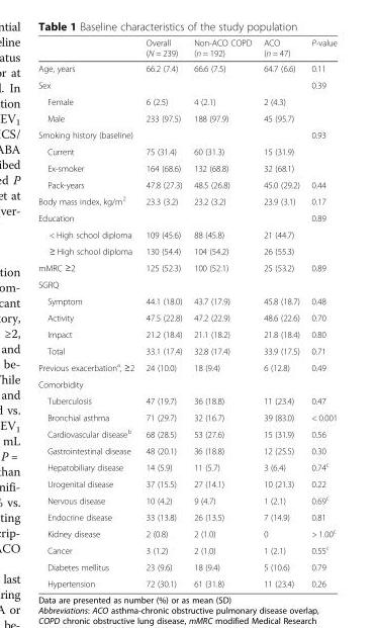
<table><thead><tr><td></td><td>Overall (N = 239)</td><td>Non-ACO COPD (n = 192)</td><td>ACO (n = 47)</td><td>P-value</td></tr></thead><tbody><tr><td>Age, years</td><td>66.2 (7.4)</td><td>66.6 (7.5)</td><td>64.7 (6.6)</td><td>0.11</td></tr><tr><td>Sex</td><td></td><td></td><td></td><td>0.39</td></tr><tr><td>Female</td><td>6 (2.5)</td><td>4 (2.1)</td><td>2 (4.3)</td><td></td></tr><tr><td>Male</td><td>233 (97.5)</td><td>188 (97.9)</td><td>45 (95.7)</td><td></td></tr><tr><td>Smoking history (baseline)</td><td></td><td></td><td></td><td>0.93</td></tr><tr><td>Current</td><td>75 (31.4)</td><td>60 (31.3)</td><td>15 (31.9)</td><td></td></tr><tr><td>Ex-smoker</td><td>164 (68.6)</td><td>132 (68.8)</td><td>32 (68.1)</td><td></td></tr><tr><td>Pack-years</td><td>47.8 (27.3)</td><td>48.5 (26.8)</td><td>45.0 (29.2)</td><td>0.44</td></tr><tr><td>Body mass index, kg/m<sup>2</sup></td><td>23.3 (3.2)</td><td>23.2 (3.2)</td><td>23.9 (3.1)</td><td>0.17</td></tr><tr><td>Education</td><td></td><td></td><td></td><td>0.89</td></tr><tr><td>&lt; High school diploma</td><td>109 (45.6)</td><td>88 (45.8)</td><td>21 (44.7)</td><td></td></tr><tr><td>≥ High school diploma</td><td>130 (54.4)</td><td>104 (54.2)</td><td>26 (55.3)</td><td></td></tr><tr><td>mMRC ≥2</td><td>125 (52.3)</td><td>100 (52.1)</td><td>25 (53.2)</td><td>0.89</td></tr><tr><td colspan="5">SGRQ</td></tr><tr><td>Symptom</td><td>44.1 (18.0)</td><td>43.7 (17.9)</td><td>45.8 (18.7)</td><td>0.48</td></tr><tr><td>Activity</td><td>47.5 (22.8)</td><td>47.2 (22.9)</td><td>48.6 (22.6)</td><td>0.70</td></tr><tr><td>Impact</td><td>21.2 (18.4)</td><td>21.1 (18.2)</td><td>21.8 (18.4)</td><td>0.80</td></tr><tr><td>Total</td><td>33.1 (17.4)</td><td>32.8 (17.4)</td><td>33.9 (17.5)</td><td>0.71</td></tr><tr><td>Previous exacerbation<sup>a</sup>, ≥2</td><td>24 (10.0)</td><td>18 (9.4)</td><td>6 (12.8)</td><td>0.49</td></tr><tr><td colspan="5">Comorbidity</td></tr><tr><td>Tuberculosis</td><td>47 (19.7)</td><td>36 (18.8)</td><td>11 (23.4)</td><td>0.47</td></tr><tr><td>Bronchial asthma</td><td>71 (29.7)</td><td>32 (16.7)</td><td>39 (83.0)</td><td>&lt; 0.001</td></tr><tr><td>Cardiovascular disease<sup>b</sup></td><td>68 (28.5)</td><td>53 (27.6)</td><td>15 (31.9)</td><td>0.56</td></tr><tr><td>Gastrointestinal disease</td><td>48 (20.1)</td><td>36 (18.8)</td><td>12 (25.5)</td><td>0.30</td></tr><tr><td>Hepatobiliary disease</td><td>14 (5.9)</td><td>11 (5.7)</td><td>3 (6.4)</td><td>0.74<sup>c</sup></td></tr><tr><td>Urogenital disease</td><td>37 (15.5)</td><td>27 (14.1)</td><td>10 (21.3)</td><td>0.22</td></tr><tr><td>Nervous disease</td><td>10 (4.2)</td><td>9 (4.7)</td><td>1 (2.1)</td><td>0.69<sup>c</sup></td></tr><tr><td>Endocrine disease</td><td>33 (13.8)</td><td>26 (13.5)</td><td>7 (14.9)</td><td>0.81</td></tr><tr><td>Kidney disease</td><td>2 (0.8)</td><td>2 (1.0)</td><td>0</td><td>&gt; 1.00<sup>c</sup></td></tr><tr><td>Cancer</td><td>3 (1.2)</td><td>2 (1.0)</td><td>1 (2.1)</td><td>0.55<sup>c</sup></td></tr><tr><td>Diabetes mellitus</td><td>23 (9.6)</td><td>18 (9.4)</td><td>5 (10.6)</td><td>0.79</td></tr><tr><td>Hypertension</td><td>72 (30.1)</td><td>61 (31.8)</td><td>11 (23.4)</td><td>0.26</td></tr></tbody></table>